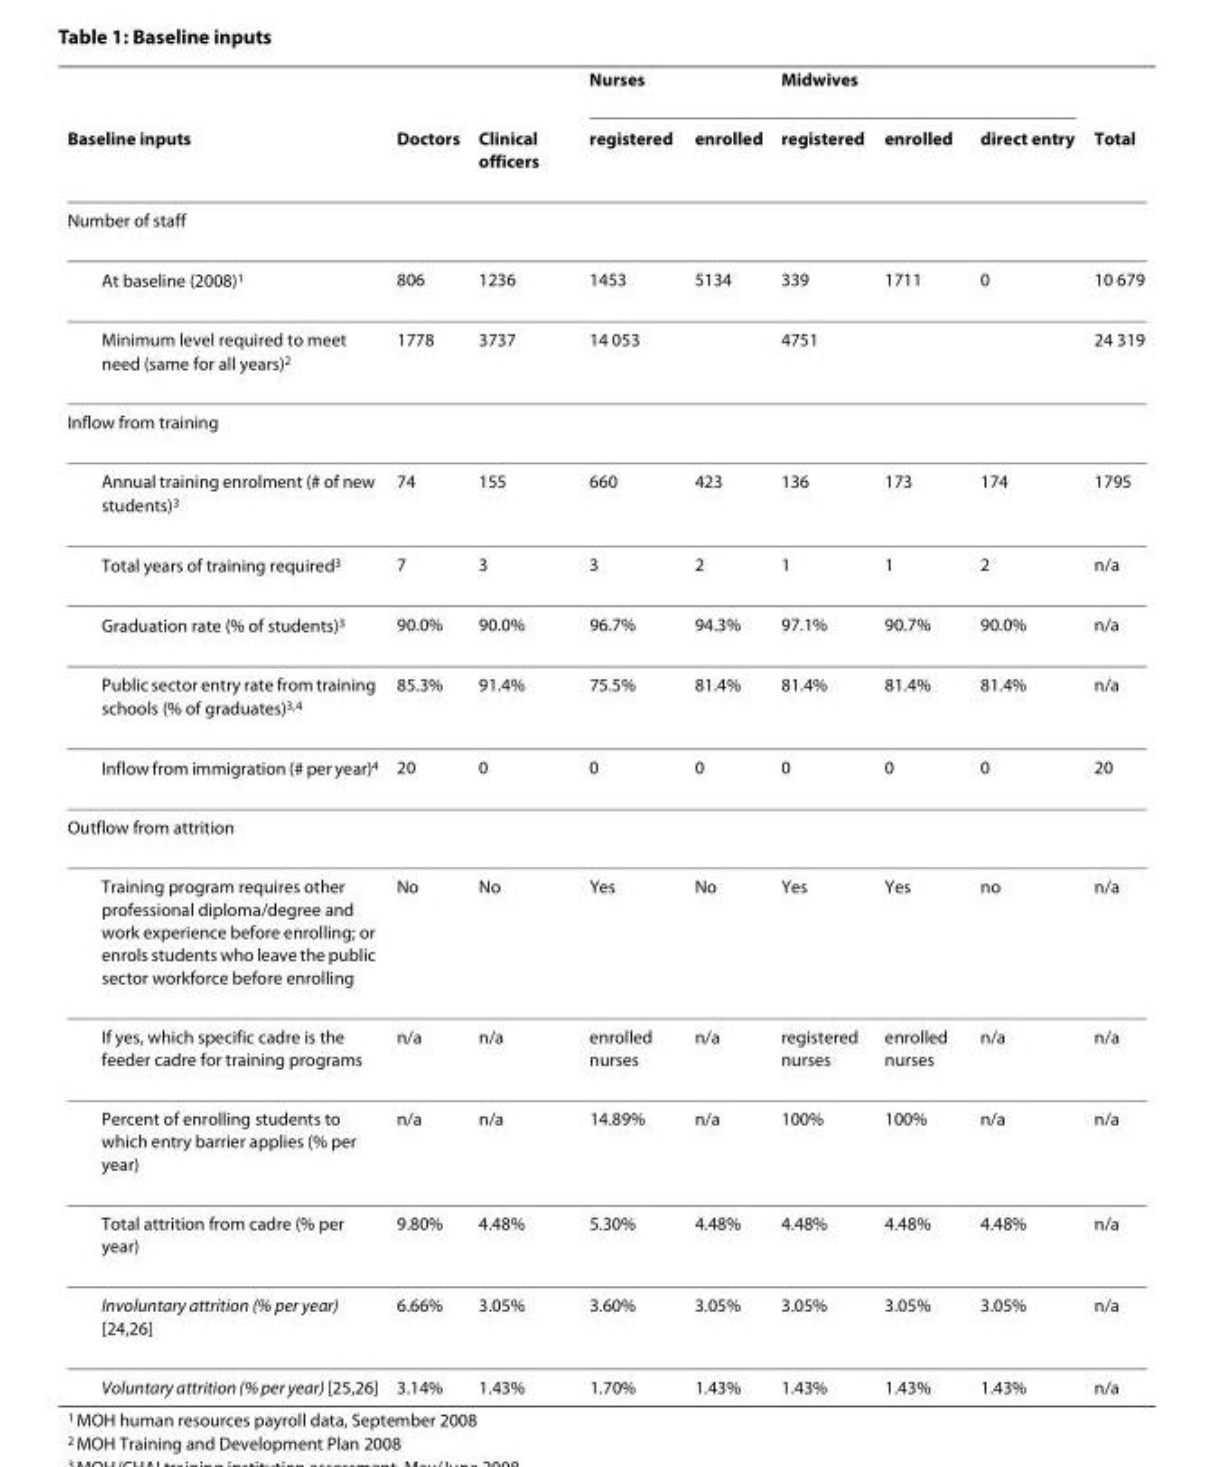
<table><thead><tr><td rowspan="2">Baseline inputs</td><td rowspan="2">Doctors</td><td rowspan="2">Clinical officers</td><td colspan="2">Nurses</td><td colspan="3">Midwives</td><td rowspan="2">Total</td></tr><tr><td>registered</td><td>enrolled</td><td>registered</td><td>enrolled</td><td>direct entry</td></tr></thead><tbody><tr><td colspan="9">Number of staff</td></tr><tr><td>At baseline (2008)<sup>1</sup></td><td>806</td><td>1236</td><td>1453</td><td>5134</td><td>339</td><td>1711</td><td>0</td><td>10 679</td></tr><tr><td>Minimum level required to meet need (same for all years)<sup>2</sup></td><td>1778</td><td>3737</td><td colspan="2">14 053</td><td colspan="3">4751</td><td>24 319</td></tr><tr><td colspan="9">Inflow from training</td></tr><tr><td>Annual training enrolment (# of new students)<sup>3</sup></td><td>74</td><td>155</td><td>660</td><td>423</td><td>136</td><td>173</td><td>174</td><td>1795</td></tr><tr><td>Total years of training required<sup>3</sup></td><td>7</td><td>3</td><td>3</td><td>2</td><td>1</td><td>1</td><td>2</td><td>n/a</td></tr><tr><td>Graduation rate (% of students)<sup>3</sup></td><td>90.0%</td><td>90.0%</td><td>96.7%</td><td>94.3%</td><td>97.1%</td><td>90.7%</td><td>90.0%</td><td>n/a</td></tr><tr><td>Public sector entry rate from training schools (% of graduates)<sup>3,4</sup></td><td>85.3%</td><td>91.4%</td><td>75.5%</td><td>81.4%</td><td>81.4%</td><td>81.4%</td><td>81.4%</td><td>n/a</td></tr><tr><td>Inflow from immigration (# per year)<sup>4</sup></td><td>20</td><td>0</td><td>0</td><td>0</td><td>0</td><td>0</td><td>0</td><td>20</td></tr><tr><td colspan="9">Outflow from attrition</td></tr><tr><td>Training program requires other professional diploma/degree and work experience before enrolling; or enrols students who leave the public sector workforce before enrolling</td><td>No</td><td>No</td><td>Yes</td><td>No</td><td>Yes</td><td>Yes</td><td>no</td><td>n/a</td></tr><tr><td>If yes, which specific cadre is the feeder cadre for training programs</td><td>n/a</td><td>n/a</td><td>enrolled nurses</td><td>n/a</td><td>registered nurses</td><td>enrolled nurses</td><td>n/a</td><td>n/a</td></tr><tr><td>Percent of enrolling students to which entry barrier applies (% per year)</td><td>n/a</td><td>n/a</td><td>14.89%</td><td>n/a</td><td>100%</td><td>100%</td><td>n/a</td><td>n/a</td></tr><tr><td>Total attrition from cadre (% per year)</td><td>9.80%</td><td>4.48%</td><td>5.30%</td><td>4.48%</td><td>4.48%</td><td>4.48%</td><td>4.48%</td><td>n/a</td></tr><tr><td>Involuntary attrition (% per year) [24,26]</td><td>6.66%</td><td>3.05%</td><td>3.60%</td><td>3.05%</td><td>3.05%</td><td>3.05%</td><td>3.05%</td><td>n/a</td></tr><tr><td>Voluntary attrition (% per year) [25,26]</td><td>3.14%</td><td>1.43%</td><td>1.70%</td><td>1.43%</td><td>1.43%</td><td>1.43%</td><td>1.43%</td><td>n/a</td></tr></tbody></table>